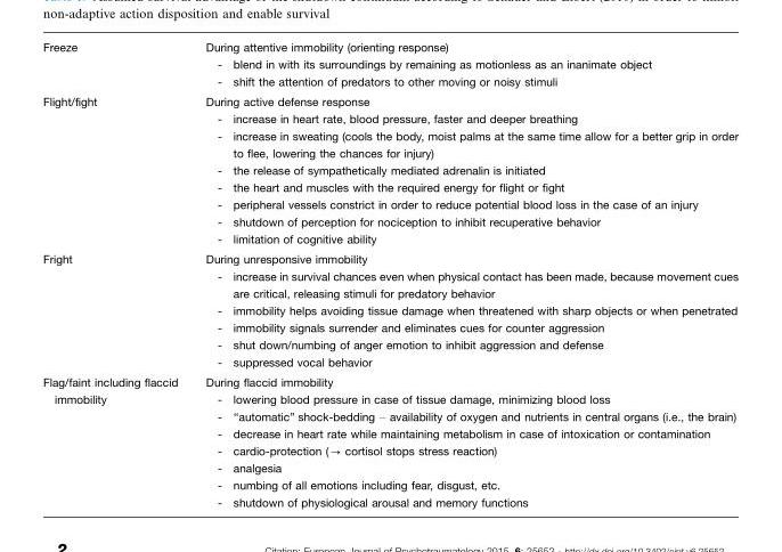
<table><tbody><tr><td>Freeze</td><td>During attentive immobility (orienting response) - blend in with its surroundings by remaining as motionless as an inanimate object - shift the attention of predators to other moving or noisy stimuli</td></tr><tr><td>Flight/fight</td><td>During active defense response - increase in heart rate, blood pressure, faster and deeper breathing - increase in sweating (cools the body, moist palms at the same time allow for a better grip in order to flee, lowering the chances for injury) - the release of sympathetically mediated adrenalin is initiated - the heart and muscles with the required energy for flight or fight - peripheral vessels constrict in order to reduce potential blood loss in the case of an injury - shutdown of perception for nociception to inhibit recuperative behavior - limitation of cognitive ability</td></tr><tr><td>Fright</td><td>During unresponsive immobility - increase in survival chances even when physical contact has been made, because movement cues are critical, releasing stimuli for predatory behavior - immobility helps avoiding tissue damage when threatened with sharp objects or when penetrated - immobility signals surrender and eliminates cues for counter aggression - shut down/numbing of anger emotion to inhibit aggression and defense - suppressed vocal behavior</td></tr><tr><td>Flag/faint including flaccid immobility</td><td>During flaccid immobility - lowering blood pressure in case of tissue damage, minimizing blood loss - ‘‘automatic’’ shock-bedding � availability of oxygen and nutrients in central organs (i.e., the brain) - decrease in heart rate while maintaining metabolism in case of intoxication or contamination - cardio-protection (0 cortisol stops stress reaction) - analgesia - numbing of all emotions including fear, disgust, etc. - shutdown of physiological arousal and memory functions</td></tr></tbody></table>